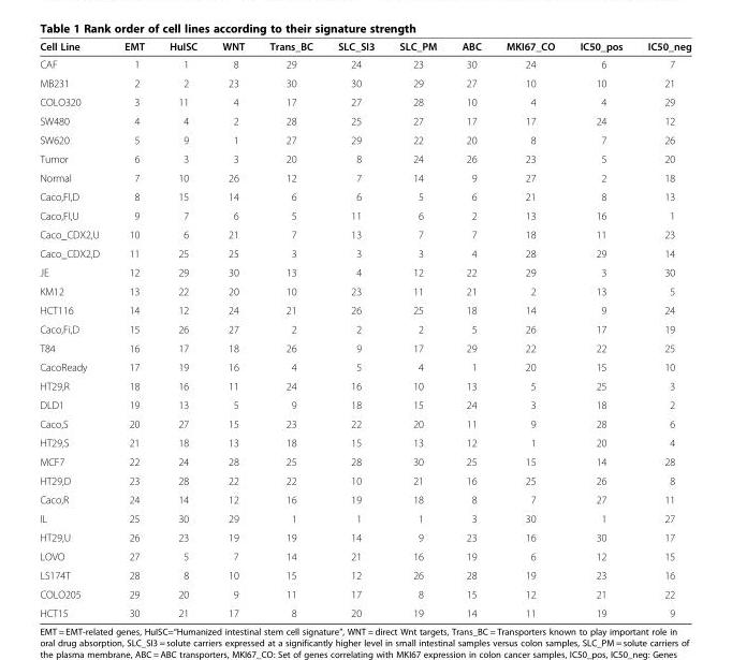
<table><thead><tr><td>Cell Line</td><td>EMT</td><td>HuISC</td><td>WNT</td><td>Trans_BC</td><td>SLC_SI3</td><td>SLC_PM</td><td>ABC</td><td>MKI67_CO</td><td>IC50_pos</td><td>IC50_neg</td></tr></thead><tbody><tr><td>CAF</td><td>1</td><td>1</td><td>8</td><td>29</td><td>24</td><td>23</td><td>30</td><td>24</td><td>6</td><td>7</td></tr><tr><td>MB231</td><td>2</td><td>2</td><td>23</td><td>30</td><td>30</td><td>29</td><td>27</td><td>10</td><td>10</td><td>21</td></tr><tr><td>COLO320</td><td>3</td><td>11</td><td>4</td><td>17</td><td>27</td><td>28</td><td>10</td><td>4</td><td>4</td><td>29</td></tr><tr><td>SW480</td><td>4</td><td>4</td><td>2</td><td>28</td><td>25</td><td>27</td><td>17</td><td>17</td><td>24</td><td>12</td></tr><tr><td>SW620</td><td>5</td><td>9</td><td>1</td><td>27</td><td>29</td><td>22</td><td>20</td><td>8</td><td>7</td><td>26</td></tr><tr><td>Tumor</td><td>6</td><td>3</td><td>3</td><td>20</td><td>8</td><td>24</td><td>26</td><td>23</td><td>5</td><td>20</td></tr><tr><td>Normal</td><td>7</td><td>10</td><td>26</td><td>12</td><td>7</td><td>14</td><td>9</td><td>27</td><td>2</td><td>18</td></tr><tr><td>Caco,Fl,D</td><td>8</td><td>15</td><td>14</td><td>6</td><td>6</td><td>5</td><td>6</td><td>21</td><td>8</td><td>13</td></tr><tr><td>Caco,Fl,U</td><td>9</td><td>7</td><td>6</td><td>5</td><td>11</td><td>6</td><td>2</td><td>13</td><td>16</td><td>1</td></tr><tr><td>Caco_CDX2,U</td><td>10</td><td>6</td><td>21</td><td>7</td><td>13</td><td>7</td><td>7</td><td>18</td><td>11</td><td>23</td></tr><tr><td>Caco_CDX2,D</td><td>11</td><td>25</td><td>25</td><td>3</td><td>3</td><td>3</td><td>4</td><td>28</td><td>29</td><td>14</td></tr><tr><td>JE</td><td>12</td><td>29</td><td>30</td><td>13</td><td>4</td><td>12</td><td>22</td><td>29</td><td>3</td><td>30</td></tr><tr><td>KM12</td><td>13</td><td>22</td><td>20</td><td>10</td><td>23</td><td>11</td><td>21</td><td>2</td><td>13</td><td>5</td></tr><tr><td>HCT116</td><td>14</td><td>12</td><td>24</td><td>21</td><td>26</td><td>25</td><td>18</td><td>14</td><td>9</td><td>24</td></tr><tr><td>Caco,Fi,D</td><td>15</td><td>26</td><td>27</td><td>2</td><td>2</td><td>2</td><td>5</td><td>26</td><td>17</td><td>19</td></tr><tr><td>T84</td><td>16</td><td>17</td><td>18</td><td>26</td><td>9</td><td>17</td><td>29</td><td>22</td><td>22</td><td>25</td></tr><tr><td>CacoReady</td><td>17</td><td>19</td><td>16</td><td>4</td><td>5</td><td>4</td><td>1</td><td>20</td><td>15</td><td>10</td></tr><tr><td>HT29,R</td><td>18</td><td>16</td><td>11</td><td>24</td><td>16</td><td>10</td><td>13</td><td>5</td><td>25</td><td>3</td></tr><tr><td>DLD1</td><td>19</td><td>13</td><td>5</td><td>9</td><td>18</td><td>15</td><td>24</td><td>3</td><td>18</td><td>2</td></tr><tr><td>Caco,S</td><td>20</td><td>27</td><td>15</td><td>23</td><td>22</td><td>20</td><td>11</td><td>9</td><td>28</td><td>6</td></tr><tr><td>HT29,S</td><td>21</td><td>18</td><td>13</td><td>18</td><td>15</td><td>13</td><td>12</td><td>1</td><td>20</td><td>4</td></tr><tr><td>MCF7</td><td>22</td><td>24</td><td>28</td><td>25</td><td>28</td><td>30</td><td>25</td><td>15</td><td>14</td><td>28</td></tr><tr><td>HT29,D</td><td>23</td><td>28</td><td>22</td><td>22</td><td>10</td><td>21</td><td>16</td><td>25</td><td>26</td><td>8</td></tr><tr><td>Caco,R</td><td>24</td><td>14</td><td>12</td><td>16</td><td>19</td><td>18</td><td>8</td><td>7</td><td>27</td><td>11</td></tr><tr><td>IL</td><td>25</td><td>30</td><td>29</td><td>1</td><td>1</td><td>1</td><td>3</td><td>30</td><td>1</td><td>27</td></tr><tr><td>HT29,U</td><td>26</td><td>23</td><td>19</td><td>19</td><td>14</td><td>9</td><td>23</td><td>16</td><td>30</td><td>17</td></tr><tr><td>LOVO</td><td>27</td><td>5</td><td>7</td><td>14</td><td>21</td><td>16</td><td>19</td><td>6</td><td>12</td><td>15</td></tr><tr><td>LS174T</td><td>28</td><td>8</td><td>10</td><td>15</td><td>12</td><td>26</td><td>28</td><td>19</td><td>23</td><td>16</td></tr><tr><td>COLO205</td><td>29</td><td>20</td><td>9</td><td>11</td><td>17</td><td>8</td><td>15</td><td>12</td><td>21</td><td>22</td></tr><tr><td>HCT15</td><td>30</td><td>21</td><td>17</td><td>8</td><td>20</td><td>19</td><td>14</td><td>11</td><td>19</td><td>9</td></tr></tbody></table>